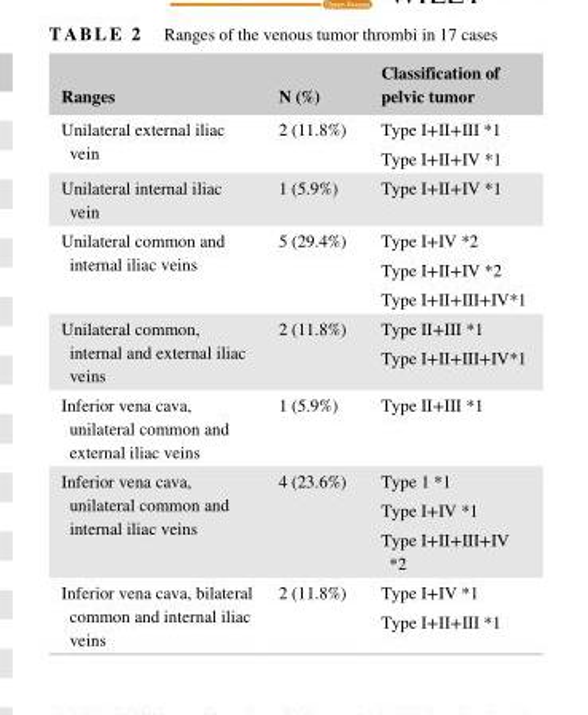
<table><thead><tr><td>Ranges</td><td>N (%)</td><td>Classification of pelvic tumor</td></tr></thead><tbody><tr><td rowspan="2">Unilateral external iliac vein</td><td rowspan="2">2 (11.8%)</td><td>Type I+II+III *1</td></tr><tr><td>Type I+II+IV *1</td></tr><tr><td>Unilateral internal iliac vein</td><td>1 (5.9%)</td><td>Type I+II+IV *1</td></tr><tr><td rowspan="3">Unilateral common and internal iliac veins</td><td rowspan="3">5 (29.4%)</td><td>Type I+IV *2</td></tr><tr><td>Type I+II+IV *2</td></tr><tr><td>Type I+II+III+IV*1</td></tr><tr><td rowspan="2">Unilateral common, internal and external iliac veins</td><td rowspan="2">2 (11.8%)</td><td>Type II+III *1</td></tr><tr><td>Type I+II+III+IV*1</td></tr><tr><td>Inferior vena cava, unilateral common and external iliac veins</td><td>1 (5.9%)</td><td>Type II+III *1</td></tr><tr><td rowspan="3">Inferior vena cava, unilateral common and internal iliac veins</td><td rowspan="3">4 (23.6%)</td><td>Type 1 *1</td></tr><tr><td>Type I+IV *1</td></tr><tr><td>Type I+II+III+IV *2</td></tr><tr><td rowspan="2">Inferior vena cava, bilateral common and internal iliac veins</td><td rowspan="2">2 (11.8%)</td><td>Type I+IV *1</td></tr><tr><td>Type I+II+III *1</td></tr></tbody></table>